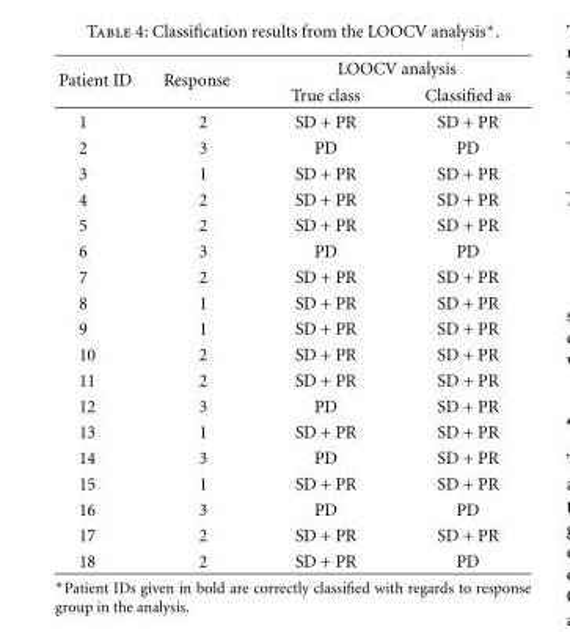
<table><thead><tr><td rowspan="2">Patient ID</td><td rowspan="2">Response</td><td colspan="2">LOOCV analysis</td></tr><tr><td>True class</td><td>Classified as</td></tr></thead><tbody><tr><td>1</td><td>2</td><td>SD + PR</td><td>SD + PR</td></tr><tr><td>2</td><td>3</td><td>PD</td><td>PD</td></tr><tr><td>3</td><td>1</td><td>SD + PR</td><td>SD + PR</td></tr><tr><td>4</td><td>2</td><td>SD + PR</td><td>SD + PR</td></tr><tr><td>5</td><td>2</td><td>SD + PR</td><td>SD + PR</td></tr><tr><td>6</td><td>3</td><td>PD</td><td>PD</td></tr><tr><td>7</td><td>2</td><td>SD + PR</td><td>SD + PR</td></tr><tr><td>8</td><td>1</td><td>SD + PR</td><td>SD + PR</td></tr><tr><td>9</td><td>1</td><td>SD + PR</td><td>SD + PR</td></tr><tr><td>10</td><td>2</td><td>SD + PR</td><td>SD + PR</td></tr><tr><td>11</td><td>2</td><td>SD + PR</td><td>SD + PR</td></tr><tr><td>12</td><td>3</td><td>PD</td><td>SD + PR</td></tr><tr><td>13</td><td>1</td><td>SD + PR</td><td>SD + PR</td></tr><tr><td>14</td><td>3</td><td>PD</td><td>SD + PR</td></tr><tr><td>15</td><td>1</td><td>SD + PR</td><td>SD + PR</td></tr><tr><td>16</td><td>3</td><td>PD</td><td>PD</td></tr><tr><td>17</td><td>2</td><td>SD + PR</td><td>SD + PR</td></tr><tr><td>18</td><td>2</td><td>SD + PR</td><td>PD</td></tr></tbody></table>